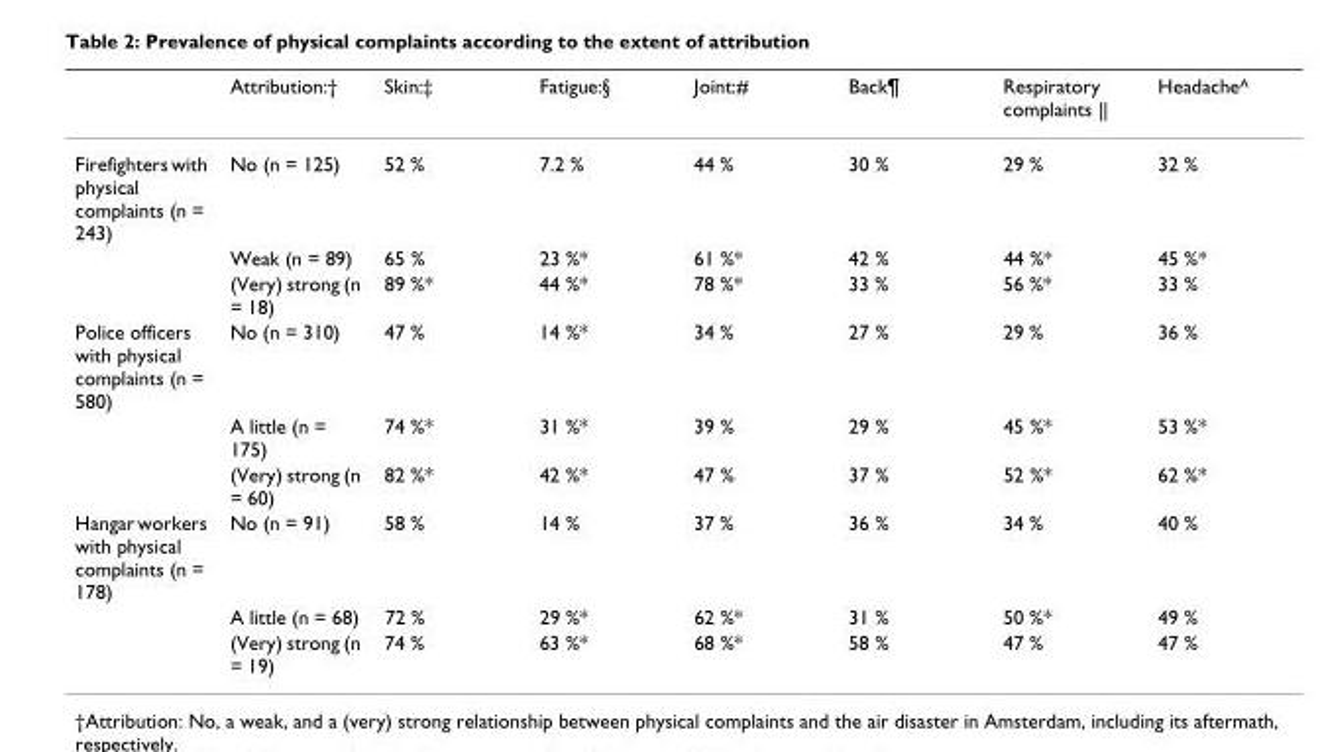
<table><thead><tr><td></td><td>Attribution:†</td><td>Skin:‡</td><td>Fatigue:§</td><td>Joint:#</td><td>Back¶</td><td>Respiratory complaints ||</td><td>Headache^</td></tr></thead><tbody><tr><td rowspan="3">Firefighters with physical complaints (n = 243)</td><td>No (n = 125)</td><td>52 %</td><td>7.2 %</td><td>44 %</td><td>30 %</td><td>29 %</td><td>32 %</td></tr><tr><td>Weak (n = 89)</td><td>65 %</td><td>23 %*</td><td>61 %*</td><td>42 %</td><td>44 %*</td><td>45 %*</td></tr><tr><td>(Very) strong (n = 18)</td><td>89 %*</td><td>44 %*</td><td>78 %*</td><td>33 %</td><td>56 %*</td><td>33 %</td></tr><tr><td rowspan="3">Police officers with physical complaints (n = 580)</td><td>No (n = 310)</td><td>47 %</td><td>14 %*</td><td>34 %</td><td>27 %</td><td>29 %</td><td>36 %</td></tr><tr><td>A little (n = 175)</td><td>74 %*</td><td>31 %*</td><td>39 %</td><td>29 %</td><td>45 %*</td><td>53 %*</td></tr><tr><td>(Very) strong (n = 60)</td><td>82 %*</td><td>42 %*</td><td>47 %</td><td>37 %</td><td>52 %*</td><td>62 %*</td></tr><tr><td rowspan="3">Hangar workers with physical complaints (n = 178)</td><td>No (n = 91)</td><td>58 %</td><td>14 %</td><td>37 %</td><td>36 %</td><td>34 %</td><td>40 %</td></tr><tr><td>A little (n = 68)</td><td>72 %</td><td>29 %*</td><td>62 %*</td><td>31 %</td><td>50 %*</td><td>49 %</td></tr><tr><td>(Very) strong (n = 19)</td><td>74 %</td><td>63 %*</td><td>68 %*</td><td>58 %</td><td>47 %</td><td>47 %</td></tr></tbody></table>